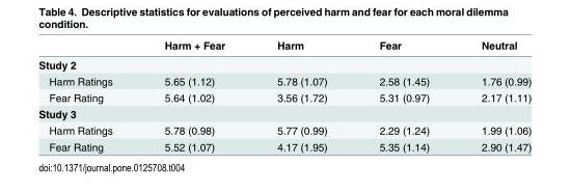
<table><thead><tr><td></td><td>Harm + Fear</td><td>Harm</td><td>Fear</td><td>Neutral</td></tr></thead><tbody><tr><td colspan="5">Study 2</td></tr><tr><td>Harm Ratings</td><td>5.65 (1.12)</td><td>5.78 (1.07)</td><td>2.58 (1.45)</td><td>1.76 (0.99)</td></tr><tr><td>Fear Rating</td><td>5.64 (1.02)</td><td>3.56 (1.72)</td><td>5.31 (0.97)</td><td>2.17 (1.11)</td></tr><tr><td colspan="5">Study 3</td></tr><tr><td>Harm Ratings</td><td>5.78 (0.98)</td><td>5.77 (0.99)</td><td>2.29 (1.24)</td><td>1.99 (1.06)</td></tr><tr><td>Fear Rating</td><td>5.52 (1.07)</td><td>4.17 (1.95)</td><td>5.35 (1.14)</td><td>2.90 (1.47)</td></tr></tbody></table>